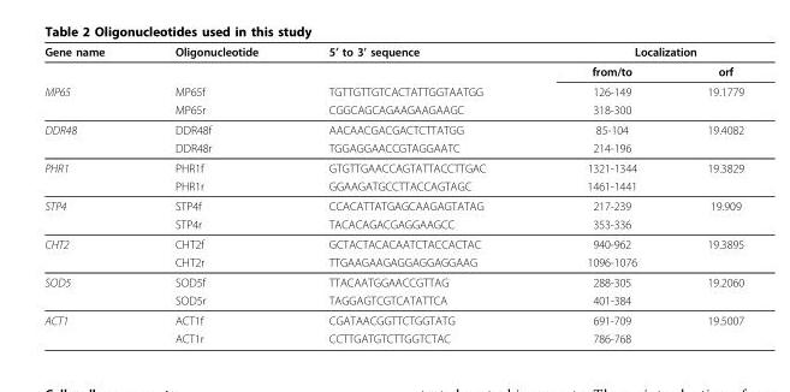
<table><thead><tr><td rowspan="2">Gene name</td><td rowspan="2">Oligonucleotide</td><td rowspan="2">5’ to 3’ sequence</td><td colspan="2">Localization</td></tr><tr><td>from/to</td><td>orf</td></tr></thead><tbody><tr><td rowspan="2">MP65</td><td>MP65f</td><td>TGTTGTTGTCACTATTGGTAATGG</td><td>126-149</td><td>19.1779</td></tr><tr><td>MP65r</td><td>CGGCAGCAGAAGAAGAAGC</td><td>318-300</td><td></td></tr><tr><td rowspan="2">DDR48</td><td>DDR48f</td><td>AACAACGACGACTCTTATGG</td><td>85-104</td><td>19.4082</td></tr><tr><td>DDR48r</td><td>TGGAGGAACCGTAGGAATC</td><td>214-196</td><td></td></tr><tr><td rowspan="2">PHR1</td><td>PHR1f</td><td>GTGTTGAACCAGTATTACCTTGAC</td><td>1321-1344</td><td>19.3829</td></tr><tr><td>PHR1r</td><td>GGAAGATGCCTTACCAGTAGC</td><td>1461-1441</td><td></td></tr><tr><td rowspan="2">STP4</td><td>STP4f</td><td>CCACATTATGAGCAAGAGTATAG</td><td>217-239</td><td>19.909</td></tr><tr><td>STP4r</td><td>TACACAGACGAGGAAGCC</td><td>353-336</td><td></td></tr><tr><td rowspan="2">CHT2</td><td>CHT2f</td><td>GCTACTACACAATCTACCACTAC</td><td>940-962</td><td>19.3895</td></tr><tr><td>CHT2r</td><td>TTGAAGAAGAGGAGGAGGAAG</td><td>1096-1076</td><td></td></tr><tr><td rowspan="2">SOD5</td><td>SOD5f</td><td>TTACAATGGAACCGTTAG</td><td>288-305</td><td>19.2060</td></tr><tr><td>SOD5r</td><td>TAGGAGTCGTCATATTCA</td><td>401-384</td><td></td></tr><tr><td rowspan="2">ACT1</td><td>ACT1f</td><td>CGATAACGGTTCTGGTATG</td><td>691-709</td><td>19.5007</td></tr><tr><td>ACT1r</td><td>CCTTGATGTCTTGGTCTAC</td><td>786-768</td><td></td></tr></tbody></table>